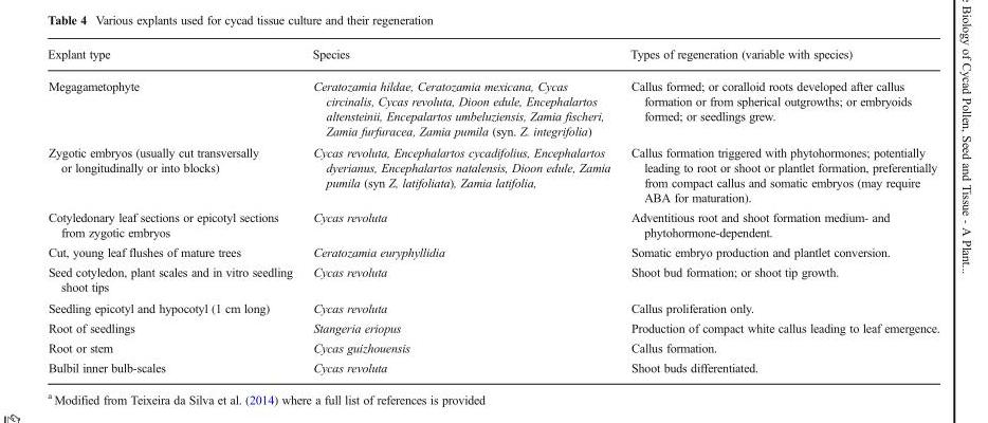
<table><thead><tr><td>Explant type</td><td>Species</td><td>Types of regeneration (variable with species)</td></tr></thead><tbody><tr><td>Megagametophyte</td><td>Ceratozamia hildae, Ceratozamia mexicana, Cycas circinalis, Cycas revoluta, Dioon edule, Encephalartos altensteinii, Encepalartos umbeluziensis, Zamia fischeri, Zamia furfuracea, Zamia pumila (syn. Z. integrifolia)</td><td>Callus formed; or coralloid roots developed after callus formation or from spherical outgrowths; or embryoids formed; or seedlings grew.</td></tr><tr><td>Zygotic embryos (usually cut transversally or longitudinally or into blocks)</td><td>Cycas revoluta, Encephalartos cycadifolius, Encephalartos dyerianus, Encephalartos natalensis, Dioon edule, Zamia pumila (syn Z, latifoliata), Zamia latifolia,</td><td>Callus formation triggered with phytohormones; potentially leading to root or shoot or plantlet formation, preferentially from compact callus and somatic embryos (may require ABA for maturation).</td></tr><tr><td>Cotyledonary leaf sections or epicotyl sections from zygotic embryos</td><td>Cycas revoluta</td><td>Adventitious root and shoot formation medium- and phytohormone-dependent.</td></tr><tr><td>Cut, young leaf flushes of mature trees</td><td>Ceratozamia euryphyllidia</td><td>Somatic embryo production and plantlet conversion.</td></tr><tr><td>Seed cotyledon, plant scales and in vitro seedling shoot tips</td><td>Cycas revoluta</td><td>Shoot bud formation; or shoot tip growth.</td></tr><tr><td>Seedling epicotyl and hypocotyl (1 cm long)</td><td>Cycas revoluta</td><td>Callus proliferation only.</td></tr><tr><td>Root of seedlings</td><td>Stangeria eriopus</td><td>Production of compact white callus leading to leaf emergence.</td></tr><tr><td>Root or stem</td><td>Cycas guizhouensis</td><td>Callus formation.</td></tr><tr><td>Bulbil inner bulb-scales</td><td>Cycas revoluta</td><td>Shoot buds differentiated.</td></tr></tbody></table>